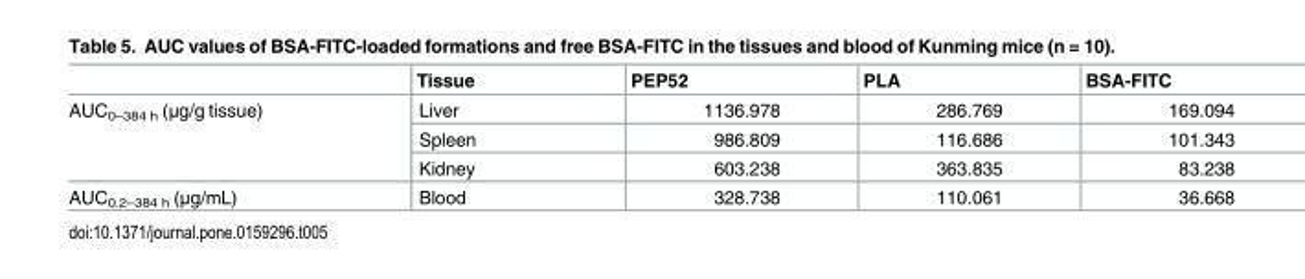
<table><thead><tr><td></td><td>Tissue</td><td>PEP52</td><td>PLA</td><td>BSA-FITC</td></tr></thead><tbody><tr><td rowspan="3">AUC<sub>0–384 h</sub> (μg/g tissue)</td><td>Liver</td><td>1136.978</td><td>286.769</td><td>169.094</td></tr><tr><td>Spleen</td><td>986.809</td><td>116.686</td><td>101.343</td></tr><tr><td>Kidney</td><td>603.238</td><td>363.835</td><td>83.238</td></tr><tr><td>AUC<sub>0.2–384 h</sub> (μg/mL)</td><td>Blood</td><td>328.738</td><td>110.061</td><td>36.668</td></tr></tbody></table>